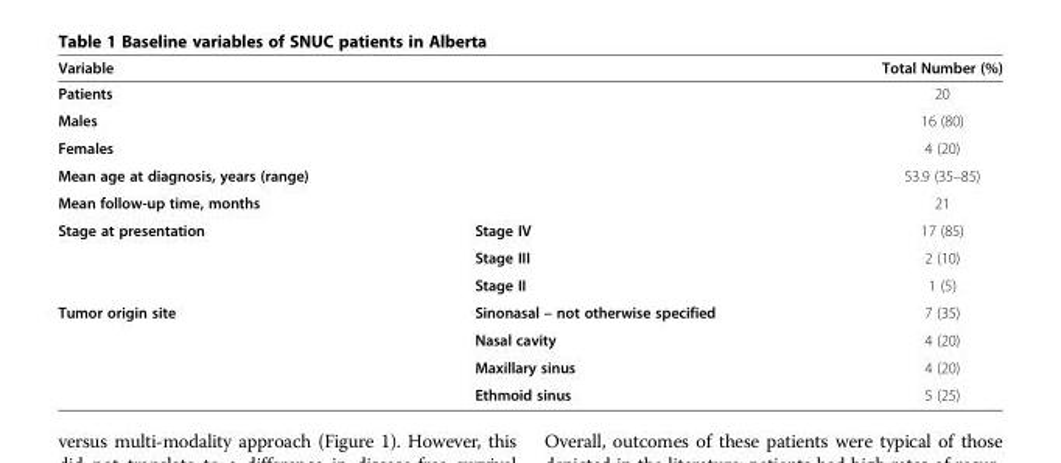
<table><thead><tr><td>Variable</td><td></td><td>Total Number (%)</td></tr></thead><tbody><tr><td colspan="2">Patients</td><td>20</td></tr><tr><td>Males</td><td></td><td>16 (80)</td></tr><tr><td>Females</td><td></td><td>4 (20)</td></tr><tr><td>Mean age at diagnosis, years (range)</td><td></td><td>53.9 (35–85)</td></tr><tr><td>Mean follow-up time, months</td><td></td><td>21</td></tr><tr><td rowspan="3">Stage at presentation</td><td>Stage IV</td><td>17 (85)</td></tr><tr><td>Stage III</td><td>2 (10)</td></tr><tr><td>Stage II</td><td>1 (5)</td></tr><tr><td rowspan="4">Tumor origin site</td><td>Sinonasal – not otherwise specified</td><td>7 (35)</td></tr><tr><td>Nasal cavity</td><td>4 (20)</td></tr><tr><td>Maxillary sinus</td><td>4 (20)</td></tr><tr><td>Ethmoid sinus</td><td>5 (25)</td></tr></tbody></table>